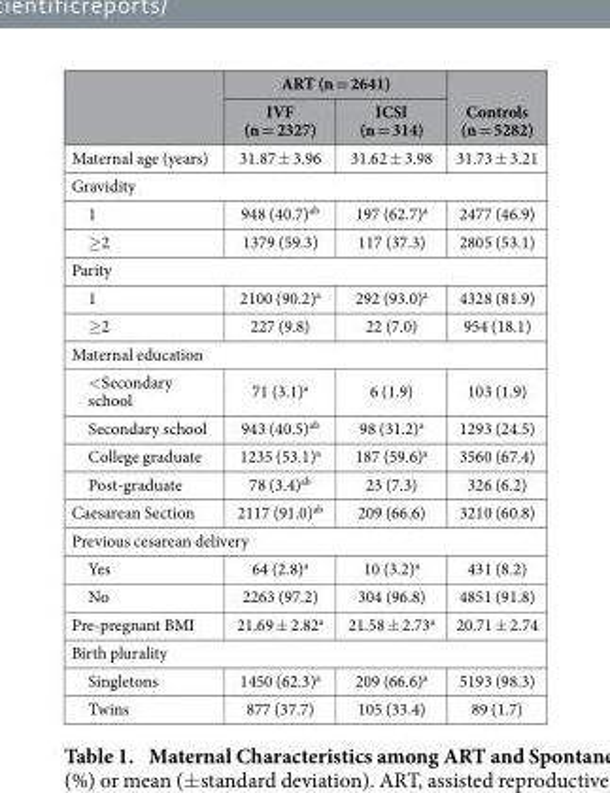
<table><thead><tr><td rowspan="2"></td><td colspan="2">ART (n = 2641)</td><td rowspan="2">Controls (n = 5282)</td></tr><tr><td>IVF (n = 2327)</td><td>ICSI (n = 314)</td></tr></thead><tbody><tr><td>Maternal age (years)</td><td>31.87 ± 3.96</td><td>31.62 ± 3.98</td><td>31.73 ± 3.21</td></tr><tr><td colspan="4">Gravidity</td></tr><tr><td>1</td><td>948 (40.7)<sup>ab</sup></td><td>197 (62.7)<sup>a</sup></td><td>2477 (46.9)</td></tr><tr><td>≥ 2</td><td>1379 (59.3)</td><td>117 (37.3)</td><td>2805 (53.1)</td></tr><tr><td colspan="4">Parity</td></tr><tr><td>1</td><td>2100 (90.2)<sup>a</sup></td><td>292 (93.0)<sup>a</sup></td><td>4328 (81.9)</td></tr><tr><td>≥ 2</td><td>227 (9.8)</td><td>22 (7.0)</td><td>954 (18.1)</td></tr><tr><td colspan="4">Maternal education</td></tr><tr><td>&lt; Secondary school</td><td>71 (3.1)<sup>a</sup></td><td>6 (1.9)</td><td>103 (1.9)</td></tr><tr><td>Secondary school</td><td>943 (40.5)<sup>ab</sup></td><td>98 (31.2)<sup>a</sup></td><td>1293 (24.5)</td></tr><tr><td>College graduate</td><td>1235 (53.1)<sup>a</sup></td><td>187 (59.6)<sup>a</sup></td><td>3560 (67.4)</td></tr><tr><td>Post-graduate</td><td>78 (3.4)<sup>ab</sup></td><td>23 (7.3)</td><td>326 (6.2)</td></tr><tr><td>Caesarean Section</td><td>2117 (91.0)<sup>ab</sup></td><td>209 (66.6)</td><td>3210 (60.8)</td></tr><tr><td colspan="4">Previous cesarean delivery</td></tr><tr><td>Yes</td><td>64 (2.8)<sup>a</sup></td><td>10 (3.2)<sup>a</sup></td><td>431 (8.2)</td></tr><tr><td>No</td><td>2263 (97.2)</td><td>304 (96.8)</td><td>4851 (91.8)</td></tr><tr><td>Pre-pregnant BMI</td><td>21.69 ± 2.82<sup>a</sup></td><td>21.58 ± 2.73<sup>a</sup></td><td>20.71 ± 2.74</td></tr><tr><td colspan="4">Birth plurality</td></tr><tr><td>Singletons</td><td>1450 (62.3)<sup>a</sup></td><td>209 (66.6)<sup>a</sup></td><td>5193 (98.3)</td></tr><tr><td>Twins</td><td>877 (37.7)</td><td>105 (33.4)</td><td>89 (1.7)</td></tr></tbody></table>